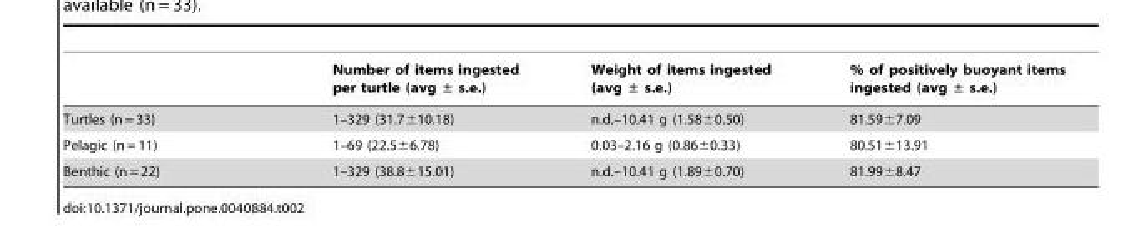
<table><thead><tr><td></td><td>Number of items ingested per turtle (avg ± s.e.)</td><td>Weight of items ingested (avg ± s.e.)</td><td>% of positively buoyant items ingested (avg ± s.e.)</td></tr></thead><tbody><tr><td>Turtles (n = 33)</td><td>1–329 (31.7±10.18)</td><td>n.d.–10.41 g (1.58±0.50)</td><td>81.59±7.09</td></tr><tr><td>Pelagic (n = 11)</td><td>1–69 (22.5±6.78)</td><td>0.03–2.16 g (0.86±0.33)</td><td>80.51±13.91</td></tr><tr><td>Benthic (n = 22)</td><td>1–329 (38.8±15.01)</td><td>n.d.–10.41 g (1.89±0.70)</td><td>81.99±8.47</td></tr></tbody></table>